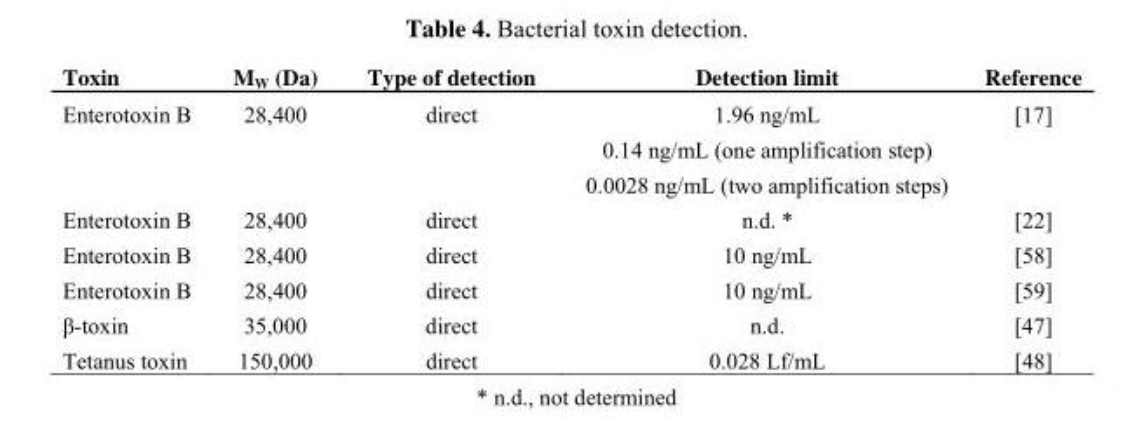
<table><thead><tr><td>Toxin</td><td>M<sub>W</sub> (Da)</td><td>Type of detection</td><td>Detection limit</td><td>Reference</td></tr></thead><tbody><tr><td rowspan="3">Enterotoxin B</td><td>28,400</td><td>direct</td><td>1.96 ng/mL</td><td>[17]</td></tr><tr><td></td><td></td><td>0.14 ng/mL (one amplification step)</td><td></td></tr><tr><td></td><td></td><td>0.0028 ng/mL (two amplification steps)</td><td></td></tr><tr><td>Enterotoxin B</td><td>28,400</td><td>direct</td><td>n.d. *</td><td>[22]</td></tr><tr><td>Enterotoxin B</td><td>28,400</td><td>direct</td><td>10 ng/mL</td><td>[58]</td></tr><tr><td>Enterotoxin B</td><td>28,400</td><td>direct</td><td>10 ng/mL</td><td>[59]</td></tr><tr><td>β-toxin</td><td>35,000</td><td>direct</td><td>n.d.</td><td>[47]</td></tr><tr><td>Tetanus toxin</td><td>150,000</td><td>direct</td><td>0.028 Lf/mL</td><td>[48]</td></tr></tbody></table>